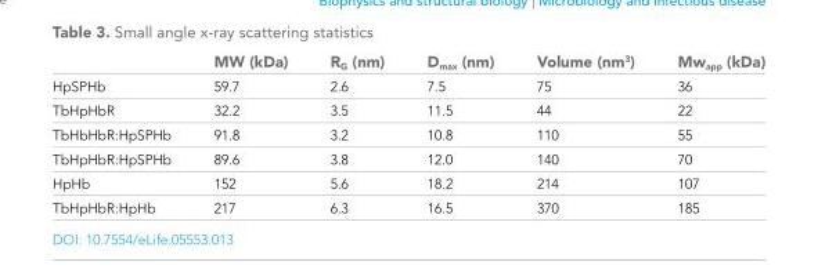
<table><thead><tr><td></td><td>MW (kDa)</td><td>R<sub>G</sub> (nm)</td><td>D<sub>max</sub> (nm)</td><td>Volume (nm<sup>3</sup>)</td><td>Mw<sub>app</sub> (kDa)</td></tr></thead><tbody><tr><td>HpSPHb</td><td>59.7</td><td>2.6</td><td>7.5</td><td>75</td><td>36</td></tr><tr><td>TbHpHbR</td><td>32.2</td><td>3.5</td><td>11.5</td><td>44</td><td>22</td></tr><tr><td>TbHbHbR:HpSPHb</td><td>91.8</td><td>3.2</td><td>10.8</td><td>110</td><td>55</td></tr><tr><td>TbHpHbR:HpSPHb</td><td>89.6</td><td>3.8</td><td>12.0</td><td>140</td><td>70</td></tr><tr><td>HpHb</td><td>152</td><td>5.6</td><td>18.2</td><td>214</td><td>107</td></tr><tr><td>TbHpHbR:HpHb</td><td>217</td><td>6.3</td><td>16.5</td><td>370</td><td>185</td></tr></tbody></table>